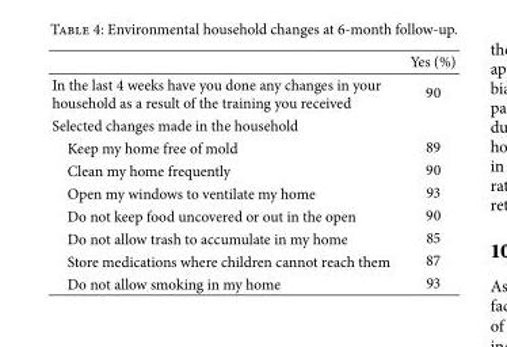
<table><thead><tr><td></td><td>Yes (%)</td></tr></thead><tbody><tr><td>In the last 4 weeks have you done any changes in your household as a result of the training you received</td><td>90</td></tr><tr><td colspan="2">Selected changes made in the household</td></tr><tr><td>Keep my home free of mold</td><td>89</td></tr><tr><td>Clean my home frequently</td><td>90</td></tr><tr><td>Open my windows to ventilate my home</td><td>93</td></tr><tr><td>Do not keep food uncovered or out in the open</td><td>90</td></tr><tr><td>Do not allow trash to accumulate in my home</td><td>85</td></tr><tr><td>Store medications where children cannot reach them</td><td>87</td></tr><tr><td>Do not allow smoking in my home</td><td>93</td></tr></tbody></table>